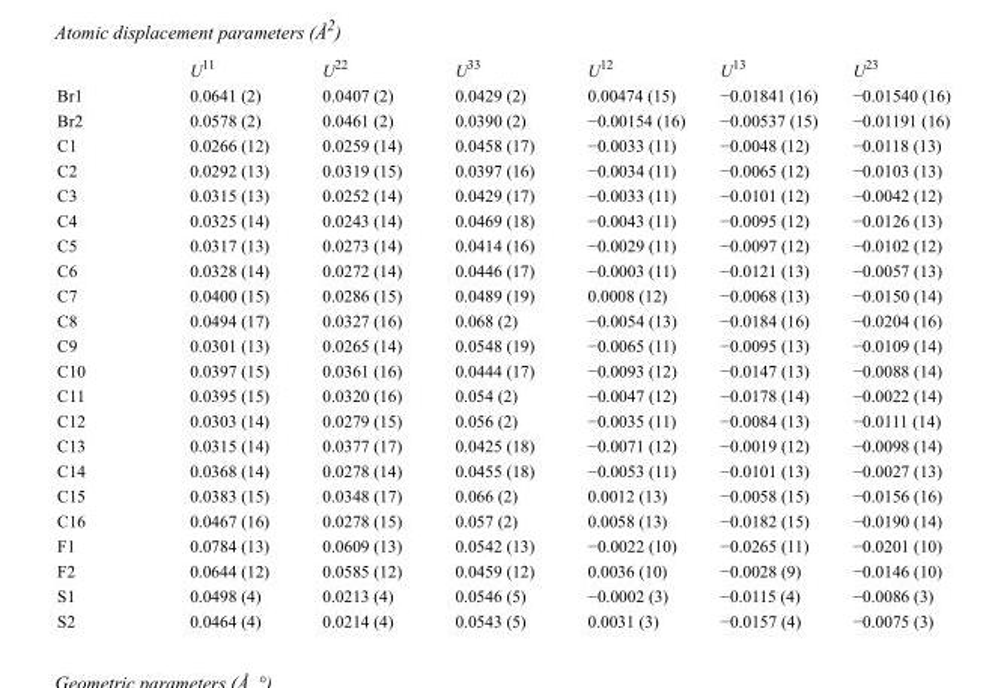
<table><thead><tr><td></td><td>U<sup>11</sup></td><td>U<sup>22</sup></td><td>U<sup>33</sup></td><td>U<sup>12</sup></td><td>U<sup>13</sup></td><td>U<sup>23</sup></td></tr></thead><tbody><tr><td>Br1</td><td>0.0641 (2)</td><td>0.0407 (2)</td><td>0.0429 (2)</td><td>0.00474 (15)</td><td>−0.01841 (16)</td><td>−0.01540 (16)</td></tr><tr><td>Br2</td><td>0.0578 (2)</td><td>0.0461 (2)</td><td>0.0390 (2)</td><td>−0.00154 (16)</td><td>−0.00537 (15)</td><td>−0.01191 (16)</td></tr><tr><td>C1</td><td>0.0266 (12)</td><td>0.0259 (14)</td><td>0.0458 (17)</td><td>−0.0033 (11)</td><td>−0.0048 (12)</td><td>−0.0118 (13)</td></tr><tr><td>C2</td><td>0.0292 (13)</td><td>0.0319 (15)</td><td>0.0397 (16)</td><td>−0.0034 (11)</td><td>−0.0065 (12)</td><td>−0.0103 (13)</td></tr><tr><td>C3</td><td>0.0315 (13)</td><td>0.0252 (14)</td><td>0.0429 (17)</td><td>−0.0033 (11)</td><td>−0.0101 (12)</td><td>−0.0042 (12)</td></tr><tr><td>C4</td><td>0.0325 (14)</td><td>0.0243 (14)</td><td>0.0469 (18)</td><td>−0.0043 (11)</td><td>−0.0095 (12)</td><td>−0.0126 (13)</td></tr><tr><td>C5</td><td>0.0317 (13)</td><td>0.0273 (14)</td><td>0.0414 (16)</td><td>−0.0029 (11)</td><td>−0.0097 (12)</td><td>−0.0102 (12)</td></tr><tr><td>C6</td><td>0.0328 (14)</td><td>0.0272 (14)</td><td>0.0446 (17)</td><td>−0.0003 (11)</td><td>−0.0121 (13)</td><td>−0.0057 (13)</td></tr><tr><td>C7</td><td>0.0400 (15)</td><td>0.0286 (15)</td><td>0.0489 (19)</td><td>0.0008 (12)</td><td>−0.0068 (13)</td><td>−0.0150 (14)</td></tr><tr><td>C8</td><td>0.0494 (17)</td><td>0.0327 (16)</td><td>0.068 (2)</td><td>−0.0054 (13)</td><td>−0.0184 (16)</td><td>−0.0204 (16)</td></tr><tr><td>C9</td><td>0.0301 (13)</td><td>0.0265 (14)</td><td>0.0548 (19)</td><td>−0.0065 (11)</td><td>−0.0095 (13)</td><td>−0.0109 (14)</td></tr><tr><td>C10</td><td>0.0397 (15)</td><td>0.0361 (16)</td><td>0.0444 (17)</td><td>−0.0093 (12)</td><td>−0.0147 (13)</td><td>−0.0088 (14)</td></tr><tr><td>C11</td><td>0.0395 (15)</td><td>0.0320 (16)</td><td>0.054 (2)</td><td>−0.0047 (12)</td><td>−0.0178 (14)</td><td>−0.0022 (14)</td></tr><tr><td>C12</td><td>0.0303 (14)</td><td>0.0279 (15)</td><td>0.056 (2)</td><td>−0.0035 (11)</td><td>−0.0084 (13)</td><td>−0.0111 (14)</td></tr><tr><td>C13</td><td>0.0315 (14)</td><td>0.0377 (17)</td><td>0.0425 (18)</td><td>−0.0071 (12)</td><td>−0.0019 (12)</td><td>−0.0098 (14)</td></tr><tr><td>C14</td><td>0.0368 (14)</td><td>0.0278 (14)</td><td>0.0455 (18)</td><td>−0.0053 (11)</td><td>−0.0101 (13)</td><td>−0.0027 (13)</td></tr><tr><td>C15</td><td>0.0383 (15)</td><td>0.0348 (17)</td><td>0.066 (2)</td><td>0.0012 (13)</td><td>−0.0058 (15)</td><td>−0.0156 (16)</td></tr><tr><td>C16</td><td>0.0467 (16)</td><td>0.0278 (15)</td><td>0.057 (2)</td><td>0.0058 (13)</td><td>−0.0182 (15)</td><td>−0.0190 (14)</td></tr><tr><td>F1</td><td>0.0784 (13)</td><td>0.0609 (13)</td><td>0.0542 (13)</td><td>−0.0022 (10)</td><td>−0.0265 (11)</td><td>−0.0201 (10)</td></tr><tr><td>F2</td><td>0.0644 (12)</td><td>0.0585 (12)</td><td>0.0459 (12)</td><td>0.0036 (10)</td><td>−0.0028 (9)</td><td>−0.0146 (10)</td></tr><tr><td>S1</td><td>0.0498 (4)</td><td>0.0213 (4)</td><td>0.0546 (5)</td><td>−0.0002 (3)</td><td>−0.0115 (4)</td><td>−0.0086 (3)</td></tr><tr><td>S2</td><td>0.0464 (4)</td><td>0.0214 (4)</td><td>0.0543 (5)</td><td>0.0031 (3)</td><td>−0.0157 (4)</td><td>−0.0075 (3)</td></tr></tbody></table>